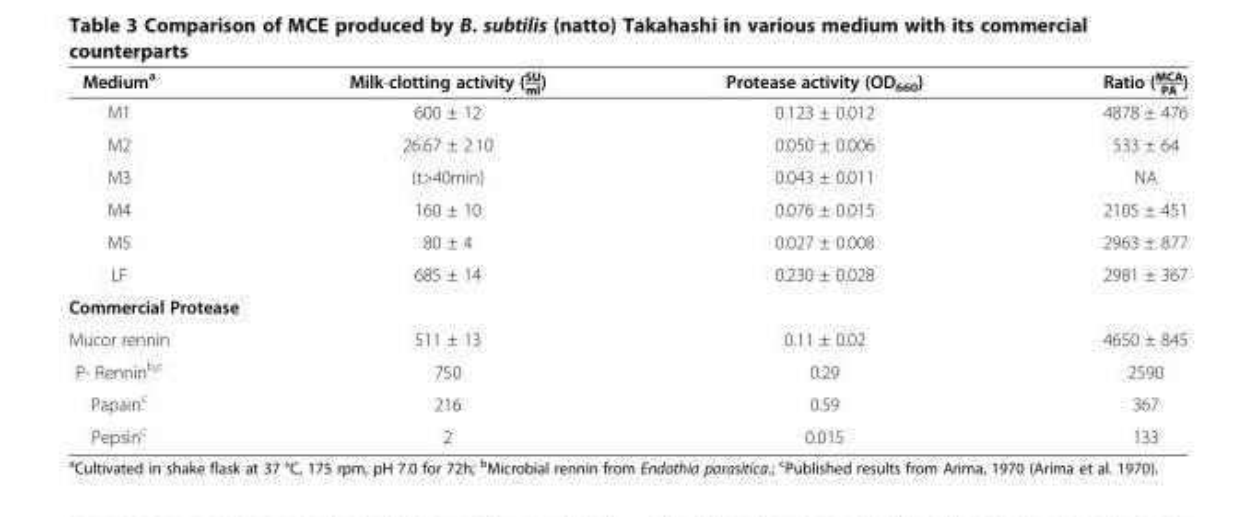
<table><thead><tr><td>Medium<sup>a</sup></td><td>Milk-clotting activity (SU ml)</td><td>Protease activity (OD<sub>660</sub>)</td><td>Ratio (MCA PA )</td></tr></thead><tbody><tr><td>M1</td><td>600 ± 12</td><td>0.123 ± 0.012</td><td>4878 ± 476</td></tr><tr><td>M2</td><td>26.67 ± 2.10</td><td>0.050 ± 0.006</td><td>533 ± 64</td></tr><tr><td>M3</td><td>(t&gt;40min)</td><td>0.043 ± 0.011</td><td>NA</td></tr><tr><td>M4</td><td>160 ± 10</td><td>0.076 ± 0.015</td><td>2105 ± 451</td></tr><tr><td>M5</td><td>80 ± 4</td><td>0.027 ± 0.008</td><td>2963 ± 877</td></tr><tr><td>LF</td><td>685 ± 14</td><td>0.230 ± 0.028</td><td>2981 ± 367</td></tr><tr><td colspan="4">Commercial Protease</td></tr><tr><td>Mucor rennin</td><td>511 ± 13</td><td>0.11 ± 0.02</td><td>4650 ± 845</td></tr><tr><td>P- Rennin<sup>b,c</sup></td><td>750</td><td>0.29</td><td>2590</td></tr><tr><td>Papain<sup>c</sup></td><td>216</td><td>0.59</td><td>367</td></tr><tr><td>Pepsin<sup>c</sup></td><td>2</td><td>0.015</td><td>133</td></tr></tbody></table>